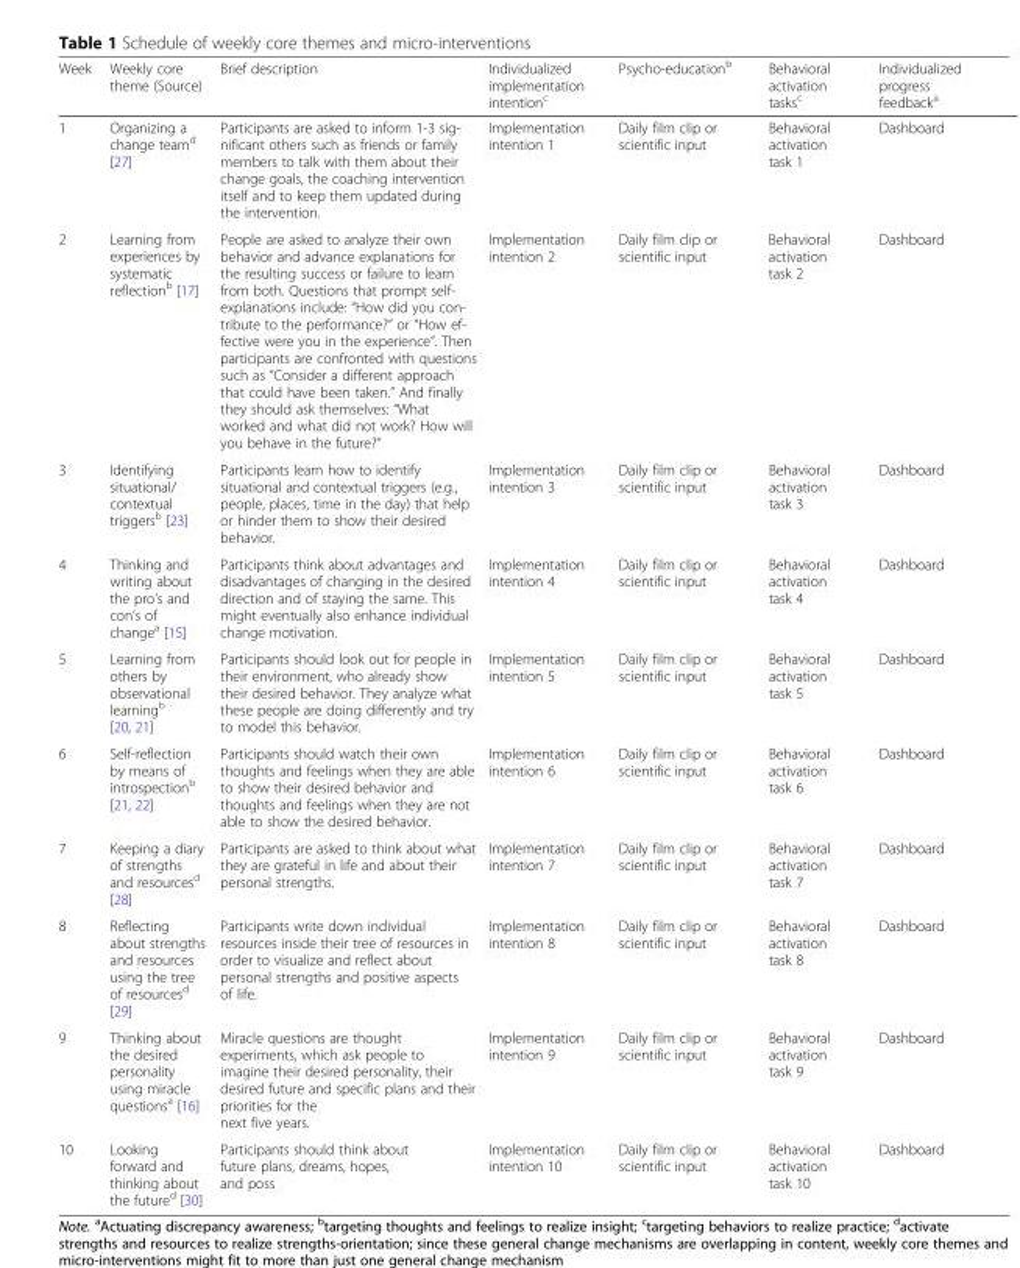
<table><thead><tr><td>Week</td><td>Weekly core theme (Source)</td><td>Brief description</td><td>Individualized implementation intention<sup>c</sup></td><td>Psycho-education<sup>b</sup></td><td>Behavioral activation tasks<sup>c</sup></td><td>Individualized progress feedback<sup>a</sup></td></tr></thead><tbody><tr><td>1</td><td>Organizing a change team<sup>d</sup> [27]</td><td>Participants are asked to inform 1-3 sig- nificant others such as friends or family members to talk with them about their change goals, the coaching intervention itself and to keep them updated during the intervention.</td><td>Implementation intention 1</td><td>Daily film clip or scientific input</td><td>Behavioral activation task 1</td><td>Dashboard</td></tr><tr><td>2</td><td>Learning from experiences by systematic reflection<sup>b</sup> [17]</td><td>People are asked to analyze their own behavior and advance explanations for the resulting success or failure to learn from both. Questions that prompt self- explanations include: “How did you con- tribute to the performance?” or “How ef- fective were you in the experience”. Then participants are confronted with questions such as “Consider a different approach that could have been taken.” And finally they should ask themselves: “What worked and what did not work? How will you behave in the future?”</td><td>Implementation intention 2</td><td>Daily film clip or scientific input</td><td>Behavioral activation task 2</td><td>Dashboard</td></tr><tr><td>3</td><td>Identifying situational/ contextual triggers<sup>b</sup> [23]</td><td>Participants learn how to identify situational and contextual triggers (e.g., people, places, time in the day) that help or hinder them to show their desired behavior.</td><td>Implementation intention 3</td><td>Daily film clip or scientific input</td><td>Behavioral activation task 3</td><td>Dashboard</td></tr><tr><td>4</td><td>Thinking and writing about the pro’s and con’s of change<sup>a</sup> [15]</td><td>Participants think about advantages and disadvantages of changing in the desired direction and of staying the same. This might eventually also enhance individual change motivation.</td><td>Implementation intention 4</td><td>Daily film clip or scientific input</td><td>Behavioral activation task 4</td><td>Dashboard</td></tr><tr><td>5</td><td>Learning from others by observational learning<sup>b</sup> [20, 21]</td><td>Participants should look out for people in their environment, who already show their desired behavior. They analyze what these people are doing differently and try to model this behavior.</td><td>Implementation intention 5</td><td>Daily film clip or scientific input</td><td>Behavioral activation task 5</td><td>Dashboard</td></tr><tr><td>6</td><td>Self-reflection by means of introspection<sup>b</sup> [21, 22]</td><td>Participants should watch their own thoughts and feelings when they are able to show their desired behavior and thoughts and feelings when they are not able to show the desired behavior.</td><td>Implementation intention 6</td><td>Daily film clip or scientific input</td><td>Behavioral activation task 6</td><td>Dashboard</td></tr><tr><td>7</td><td>Keeping a diary of strengths and resources<sup>d</sup> [28]</td><td>Participants are asked to think about what they are grateful in life and about their personal strengths.</td><td>Implementation intention 7</td><td>Daily film clip or scientific input</td><td>Behavioral activation task 7</td><td>Dashboard</td></tr><tr><td>8</td><td>Reflecting about strengths and resources using the tree of resources<sup>d</sup> [29]</td><td>Participants write down individual resources inside their tree of resources in order to visualize and reflect about personal strengths and positive aspects of life.</td><td>Implementation intention 8</td><td>Daily film clip or scientific input</td><td>Behavioral activation task 8</td><td>Dashboard</td></tr><tr><td>9</td><td>Thinking about the desired personality using miracle questions<sup>a</sup> [16]</td><td>Miracle questions are thought experiments, which ask people to imagine their desired personality, their desired future and specific plans and their priorities for the next five years.</td><td>Implementation intention 9</td><td>Daily film clip or scientific input</td><td>Behavioral activation task 9</td><td>Dashboard</td></tr><tr><td>10</td><td>Looking forward and thinking about the future<sup>d</sup> [30]</td><td>Participants should think about future plans, dreams, hopes, and poss</td><td>Implementation intention 10</td><td>Daily film clip or scientific input</td><td>Behavioral activation task 10</td><td>Dashboard</td></tr></tbody></table>